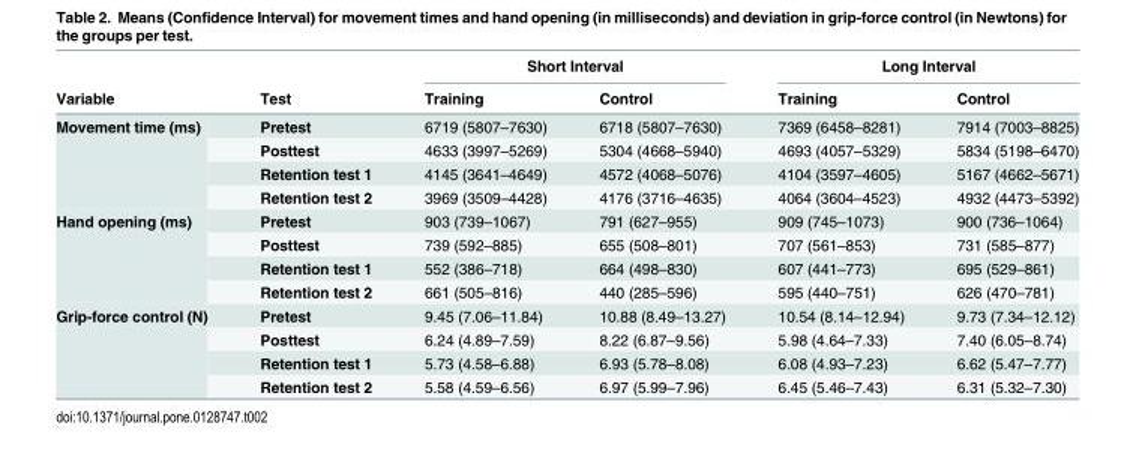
<table><thead><tr><td rowspan="2">Variable</td><td rowspan="2">Test</td><td colspan="2">Short Interval</td><td colspan="2">Long Interval</td></tr><tr><td>Training</td><td>Control</td><td>Training</td><td>Control</td></tr></thead><tbody><tr><td rowspan="4">Movement time (ms)</td><td>Pretest</td><td>6719 (5807–7630)</td><td>6718 (5807–7630)</td><td>7369 (6458–8281)</td><td>7914 (7003–8825)</td></tr><tr><td>Posttest</td><td>4633 (3997–5269)</td><td>5304 (4668–5940)</td><td>4693 (4057–5329)</td><td>5834 (5198–6470)</td></tr><tr><td>Retention test 1</td><td>4145 (3641–4649)</td><td>4572 (4068–5076)</td><td>4104 (3597–4605)</td><td>5167 (4662–5671)</td></tr><tr><td>Retention test 2</td><td>3969 (3509–4428)</td><td>4176 (3716–4635)</td><td>4064 (3604–4523)</td><td>4932 (4473–5392)</td></tr><tr><td rowspan="4">Hand opening (ms)</td><td>Pretest</td><td>903 (739–1067)</td><td>791 (627–955)</td><td>909 (745–1073)</td><td>900 (736–1064)</td></tr><tr><td>Posttest</td><td>739 (592–885)</td><td>655 (508–801)</td><td>707 (561–853)</td><td>731 (585–877)</td></tr><tr><td>Retention test 1</td><td>552 (386–718)</td><td>664 (498–830)</td><td>607 (441–773)</td><td>695 (529–861)</td></tr><tr><td>Retention test 2</td><td>661 (505–816)</td><td>440 (285–596)</td><td>595 (440–751)</td><td>626 (470–781)</td></tr><tr><td rowspan="4">Grip-force control (N)</td><td>Pretest</td><td>9.45 (7.06–11.84)</td><td>10.88 (8.49–13.27)</td><td>10.54 (8.14–12.94)</td><td>9.73 (7.34–12.12)</td></tr><tr><td>Posttest</td><td>6.24 (4.89–7.59)</td><td>8.22 (6.87–9.56)</td><td>5.98 (4.64–7.33)</td><td>7.40 (6.05–8.74)</td></tr><tr><td>Retention test 1</td><td>5.73 (4.58–6.88)</td><td>6.93 (5.78–8.08)</td><td>6.08 (4.93–7.23)</td><td>6.62 (5.47–7.77)</td></tr><tr><td>Retention test 2</td><td>5.58 (4.59–6.56)</td><td>6.97 (5.99–7.96)</td><td>6.45 (5.46–7.43)</td><td>6.31 (5.32–7.30)</td></tr></tbody></table>